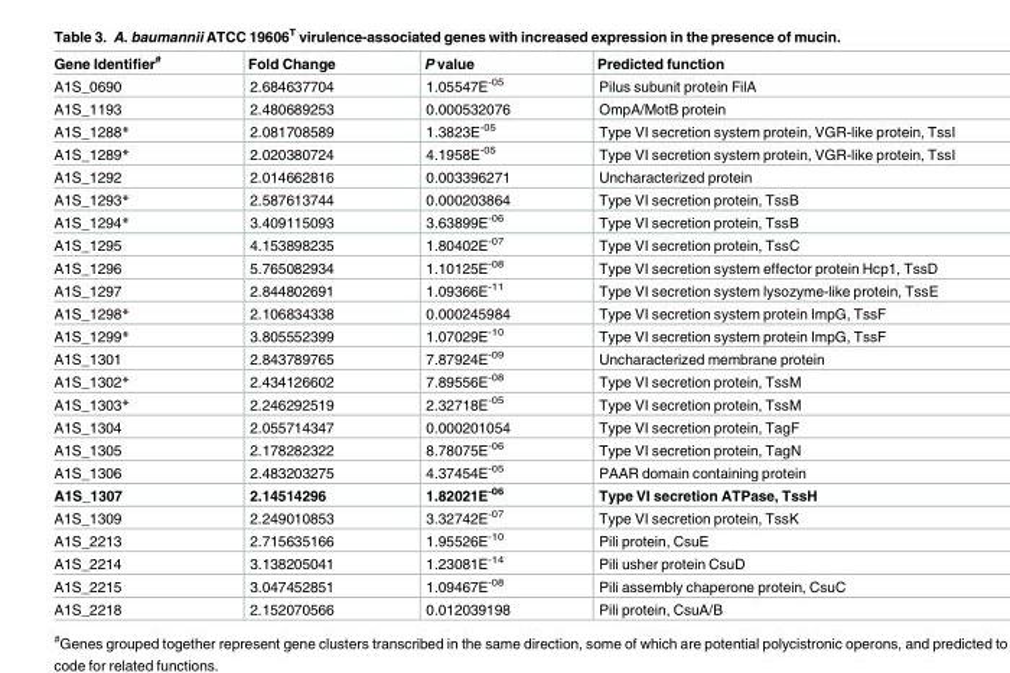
<table><thead><tr><td>Gene Identifier<sup>#</sup></td><td>Fold Change</td><td>P value</td><td>Predicted function</td></tr></thead><tbody><tr><td>A1S_0690</td><td>2.684637704</td><td>1.05547E<sup>-05</sup></td><td>Pilus subunit protein FilA</td></tr><tr><td>A1S_1193</td><td>2.480689253</td><td>0.000532076</td><td>OmpA/MotB protein</td></tr><tr><td>A1S_1288*</td><td>2.081708589</td><td>1.3823E<sup>-05</sup></td><td>Type VI secretion system protein, VGR-like protein, TssI</td></tr><tr><td>A1S_1289*</td><td>2.020380724</td><td>4.1958E<sup>-05</sup></td><td>Type VI secretion system protein, VGR-like protein, TssI</td></tr><tr><td>A1S_1292</td><td>2.014662816</td><td>0.003396271</td><td>Uncharacterized protein</td></tr><tr><td>A1S_1293*</td><td>2.587613744</td><td>0.000203864</td><td>Type VI secretion protein, TssB</td></tr><tr><td>A1S_1294*</td><td>3.409115093</td><td>3.63899E<sup>-06</sup></td><td>Type VI secretion protein, TssB</td></tr><tr><td>A1S_1295</td><td>4.153898235</td><td>1.80402E<sup>-07</sup></td><td>Type VI secretion protein, TssC</td></tr><tr><td>A1S_1296</td><td>5.765082934</td><td>1.10125E<sup>-08</sup></td><td>Type VI secretion system effector protein Hcp1, TssD</td></tr><tr><td>A1S_1297</td><td>2.844802691</td><td>1.09366E<sup>-11</sup></td><td>Type VI secretion system lysozyme-like protein, TssE</td></tr><tr><td>A1S_1298*</td><td>2.106834338</td><td>0.000245984</td><td>Type VI secretion system protein ImpG, TssF</td></tr><tr><td>A1S_1299*</td><td>3.805552399</td><td>1.07029E<sup>-10</sup></td><td>Type VI secretion system protein ImpG, TssF</td></tr><tr><td>A1S_1301</td><td>2.843789765</td><td>7.87924E<sup>-09</sup></td><td>Uncharacterized membrane protein</td></tr><tr><td>A1S_1302*</td><td>2.434126602</td><td>7.89556E<sup>-08</sup></td><td>Type VI secretion protein, TssM</td></tr><tr><td>A1S_1303*</td><td>2.246292519</td><td>2.32718E<sup>-05</sup></td><td>Type VI secretion protein, TssM</td></tr><tr><td>A1S_1304</td><td>2.055714347</td><td>0.000201054</td><td>Type VI secretion protein, TagF</td></tr><tr><td>A1S_1305</td><td>2.178282322</td><td>8.78075E<sup>-06</sup></td><td>Type VI secretion protein, TagN</td></tr><tr><td>A1S_1306</td><td>2.483203275</td><td>4.37454E<sup>-05</sup></td><td>PAAR domain containing protein</td></tr><tr><td>A1S_1307</td><td>2.14514296</td><td>1.82021E<sup>-06</sup></td><td>Type VI secretion ATPase, TssH</td></tr><tr><td>A1S_1309</td><td>2.249010853</td><td>3.32742E<sup>-07</sup></td><td>Type VI secretion protein, TssK</td></tr><tr><td>A1S_2213</td><td>2.715635166</td><td>1.95526E<sup>-10</sup></td><td>Pili protein, CsuE</td></tr><tr><td>A1S_2214</td><td>3.138205041</td><td>1.23081E<sup>-14</sup></td><td>Pili usher protein CsuD</td></tr><tr><td>A1S_2215</td><td>3.047452851</td><td>1.09467E<sup>-08</sup></td><td>Pili assembly chaperone protein, CsuC</td></tr><tr><td>A1S_2218</td><td>2.152070566</td><td>0.012039198</td><td>Pili protein, CsuA/B</td></tr></tbody></table>